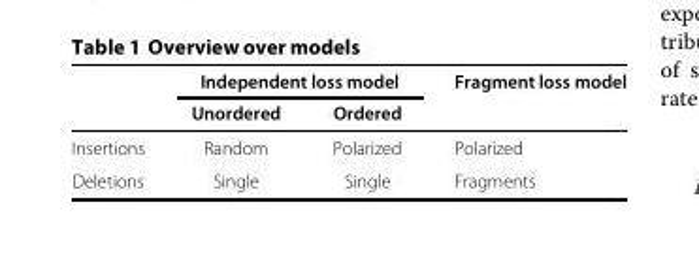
<table><thead><tr><td rowspan="2"></td><td colspan="2">Independent loss model</td><td rowspan="2">Fragment loss model</td></tr><tr><td>Unordered</td><td>Ordered</td></tr></thead><tbody><tr><td>Insertions</td><td>Random</td><td>Polarized</td><td>Polarized</td></tr><tr><td>Deletions</td><td>Single</td><td>Single</td><td>Fragments</td></tr></tbody></table>